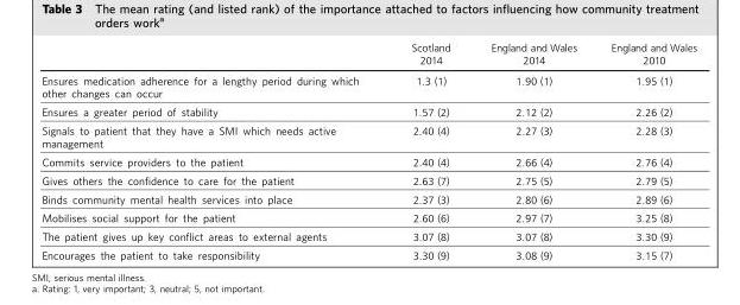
<table><thead><tr><td></td><td>Scotland 2014</td><td>England and Wales 2014</td><td>England and Wales 2010</td></tr></thead><tbody><tr><td>Ensures medication adherence for a lengthy period during which other changes can occur</td><td>1.3 (1)</td><td>1.90 (1)</td><td>1.95 (1)</td></tr><tr><td>Ensures a greater period of stability</td><td>1.57 (2)</td><td>2.12 (2)</td><td>2.26 (2)</td></tr><tr><td>Signals to patient that they have a SMI which needs active management</td><td>2.40 (4)</td><td>2.27 (3)</td><td>2.28 (3)</td></tr><tr><td>Commits service providers to the patient</td><td>2.40 (4)</td><td>2.66 (4)</td><td>2.76 (4)</td></tr><tr><td>Gives others the confidence to care for the patient</td><td>2.63 (7)</td><td>2.75 (5)</td><td>2.79 (5)</td></tr><tr><td>Binds community mental health services into place</td><td>2.37 (3)</td><td>2.80 (6)</td><td>2.89 (6)</td></tr><tr><td>Mobilises social support for the patient</td><td>2.60 (6)</td><td>2.97 (7)</td><td>3.25 (8)</td></tr><tr><td>The patient gives up key conflict areas to external agents</td><td>3.07 (8)</td><td>3.07 (8)</td><td>3.30 (9)</td></tr><tr><td>Encourages the patient to take responsibility</td><td>3.30 (9)</td><td>3.08 (9)</td><td>3.15 (7)</td></tr></tbody></table>